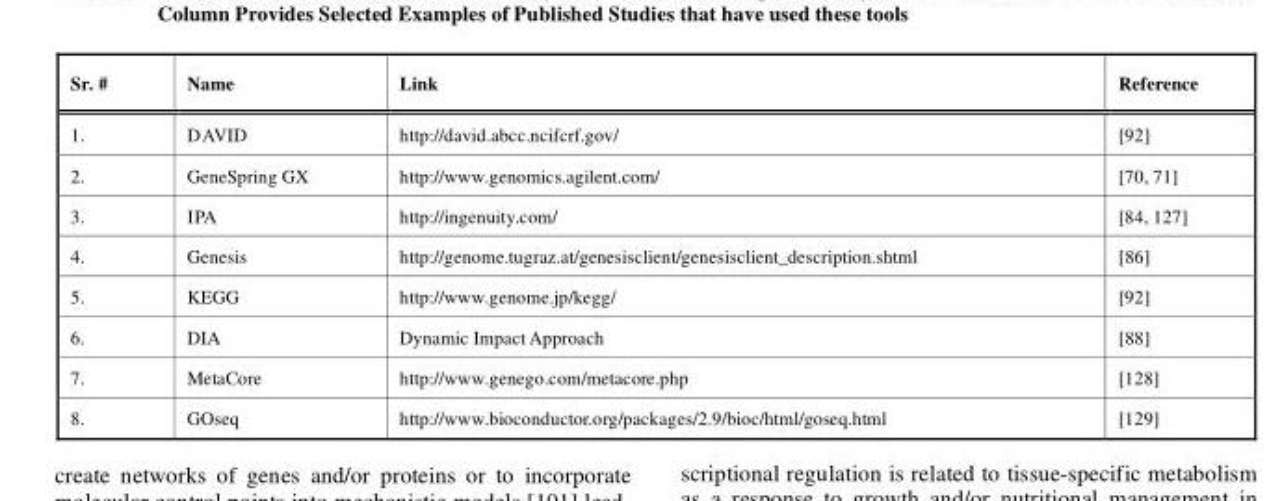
<table><thead><tr><td>Sr. #</td><td>Name</td><td>Link</td><td>Reference</td></tr></thead><tbody><tr><td>1.</td><td>DAVID</td><td>http://david.abcc.ncifcrf.gov/</td><td>[92]</td></tr><tr><td>2.</td><td>GeneSpring GX</td><td>http://www.genomics.agilent.com/</td><td>[70, 71]</td></tr><tr><td>3.</td><td>IPA</td><td>http://ingenuity.com/</td><td>[84, 127]</td></tr><tr><td>4.</td><td>Genesis</td><td>http://genome.tugraz.at/genesisclient/genesisclient_description.shtml</td><td>[86]</td></tr><tr><td>5.</td><td>KEGG</td><td>http://www.genome.jp/kegg/</td><td>[92]</td></tr><tr><td>6.</td><td>DIA</td><td>Dynamic Impact Approach</td><td>[88]</td></tr><tr><td>7.</td><td>MetaCore</td><td>http://www.genego.com/metacore.php</td><td>[128]</td></tr><tr><td>8.</td><td>GOseq</td><td>http://www.bioconductor.org/packages/2.9/bioc/html/goseq.html</td><td>[129]</td></tr></tbody></table>